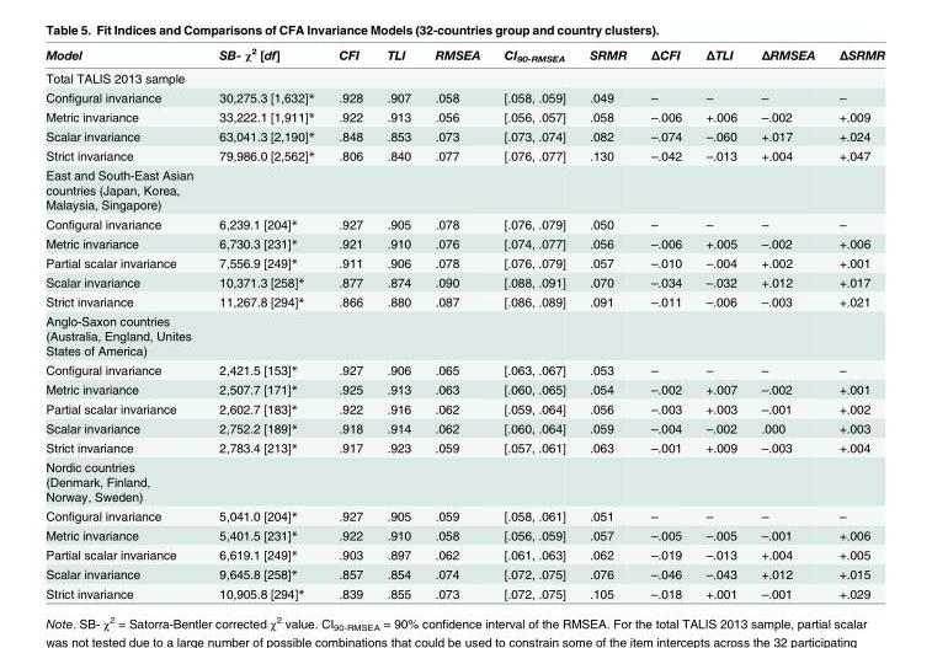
<table><thead><tr><td>Model</td><td>SB- χ<sup>2</sup> [df]</td><td>CFI</td><td>TLI</td><td>RMSEA</td><td>CI<sub>90-RMSEA</sub></td><td>SRMR</td><td>ΔCFI</td><td>ΔTLI</td><td>ΔRMSEA</td><td>ΔSRMR</td></tr></thead><tbody><tr><td colspan="11">Total TALIS 2013 sample</td></tr><tr><td>Configural invariance</td><td>30,275.3 [1,632]*</td><td>.928</td><td>.907</td><td>.058</td><td>[.058, .059]</td><td>.049</td><td>–</td><td>–</td><td>–</td><td>–</td></tr><tr><td>Metric invariance</td><td>33,222.1 [1,911]*</td><td>.922</td><td>.913</td><td>.056</td><td>[.056, .057]</td><td>.058</td><td>–.006</td><td>+.006</td><td>–.002</td><td>+.009</td></tr><tr><td>Scalar invariance</td><td>63,041.3 [2,190]*</td><td>.848</td><td>.853</td><td>.073</td><td>[.073, .074]</td><td>.082</td><td>–.074</td><td>–.060</td><td>+.017</td><td>+.024</td></tr><tr><td>Strict invariance</td><td>79,986.0 [2,562]*</td><td>.806</td><td>.840</td><td>.077</td><td>[.076, .077]</td><td>.130</td><td>–.042</td><td>–.013</td><td>+.004</td><td>+.047</td></tr><tr><td colspan="11">East and South-East Asian countries (Japan, Korea, Malaysia, Singapore)</td></tr><tr><td>Configural invariance</td><td>6,239.1 [204]*</td><td>.927</td><td>.905</td><td>.078</td><td>[.076, .079]</td><td>.050</td><td>–</td><td>–</td><td>–</td><td>–</td></tr><tr><td>Metric invariance</td><td>6,730.3 [231]*</td><td>.921</td><td>.910</td><td>.076</td><td>[.074, .077]</td><td>.056</td><td>–.006</td><td>+.005</td><td>–.002</td><td>+.006</td></tr><tr><td>Partial scalar invariance</td><td>7,556.9 [249]*</td><td>.911</td><td>.906</td><td>.078</td><td>[.076, .079]</td><td>.057</td><td>–.010</td><td>–.004</td><td>+.002</td><td>+.001</td></tr><tr><td>Scalar invariance</td><td>10,371.3 [258]*</td><td>.877</td><td>.874</td><td>.090</td><td>[.088, .091]</td><td>.070</td><td>–.034</td><td>–.032</td><td>+.012</td><td>+.017</td></tr><tr><td>Strict invariance</td><td>11,267.8 [294]*</td><td>.866</td><td>.880</td><td>.087</td><td>[.086, .089]</td><td>.091</td><td>–.011</td><td>–.006</td><td>–.003</td><td>+.021</td></tr><tr><td colspan="11">Anglo-Saxon countries (Australia, England, Unites States of America)</td></tr><tr><td>Configural invariance</td><td>2,421.5 [153]*</td><td>.927</td><td>.906</td><td>.065</td><td>[.063, .067]</td><td>.053</td><td>–</td><td>–</td><td>–</td><td>–</td></tr><tr><td>Metric invariance</td><td>2,507.7 [171]*</td><td>.925</td><td>.913</td><td>.063</td><td>[.060, .065]</td><td>.054</td><td>–.002</td><td>+.007</td><td>–.002</td><td>+.001</td></tr><tr><td>Partial scalar invariance</td><td>2,602.7 [183]*</td><td>.922</td><td>.916</td><td>.062</td><td>[.059, .064]</td><td>.056</td><td>–.003</td><td>+.003</td><td>–.001</td><td>+.002</td></tr><tr><td>Scalar invariance</td><td>2,752.2 [189]*</td><td>.918</td><td>.914</td><td>.062</td><td>[.060, .064]</td><td>.059</td><td>–.004</td><td>–.002</td><td>.000</td><td>+.003</td></tr><tr><td>Strict invariance</td><td>2,783.4 [213]*</td><td>.917</td><td>.923</td><td>.059</td><td>[.057, .061]</td><td>.063</td><td>–.001</td><td>+.009</td><td>–.003</td><td>+.004</td></tr><tr><td colspan="11">Nordic countries (Denmark, Finland, Norway, Sweden)</td></tr><tr><td>Configural invariance</td><td>5,041.0 [204]*</td><td>.927</td><td>.905</td><td>.059</td><td>[.058, .061]</td><td>.051</td><td>–</td><td>–</td><td>–</td><td>–</td></tr><tr><td>Metric invariance</td><td>5,401.5 [231]*</td><td>.922</td><td>.910</td><td>.058</td><td>[.056, .059]</td><td>.057</td><td>–.005</td><td>–.005</td><td>–.001</td><td>+.006</td></tr><tr><td>Partial scalar invariance</td><td>6,619.1 [249]*</td><td>.903</td><td>.897</td><td>.062</td><td>[.061, .063]</td><td>.062</td><td>–.019</td><td>–.013</td><td>+.004</td><td>+.005</td></tr><tr><td>Scalar invariance</td><td>9,645.8 [258]*</td><td>.857</td><td>.854</td><td>.074</td><td>[.072, .075]</td><td>.076</td><td>–.046</td><td>–.043</td><td>+.012</td><td>+.015</td></tr><tr><td>Strict invariance</td><td>10,905.8 [294]*</td><td>.839</td><td>.855</td><td>.073</td><td>[.072, .075]</td><td>.105</td><td>–.018</td><td>+.001</td><td>–.001</td><td>+.029</td></tr></tbody></table>